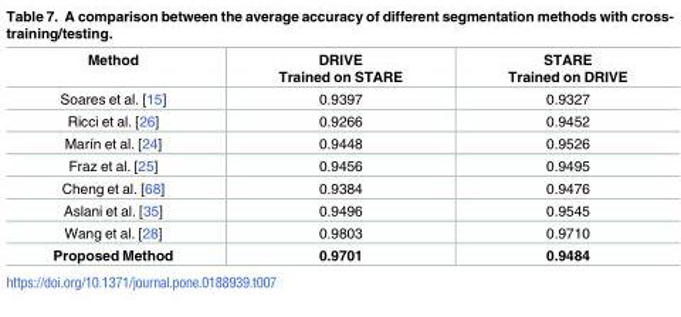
<table><thead><tr><td>Method</td><td>DRIVE Trained on STARE</td><td>STARE Trained on DRIVE</td></tr></thead><tbody><tr><td>Soares et al. [15]</td><td>0.9397</td><td>0.9327</td></tr><tr><td>Ricci et al. [26]</td><td>0.9266</td><td>0.9452</td></tr><tr><td>Marı´n et al. [24]</td><td>0.9448</td><td>0.9526</td></tr><tr><td>Fraz et al. [25]</td><td>0.9456</td><td>0.9495</td></tr><tr><td>Cheng et al. [68]</td><td>0.9384</td><td>0.9476</td></tr><tr><td>Aslani et al. [35]</td><td>0.9496</td><td>0.9545</td></tr><tr><td>Wang et al. [28]</td><td>0.9803</td><td>0.9710</td></tr><tr><td>Proposed Method</td><td>0.9701</td><td>0.9484</td></tr></tbody></table>